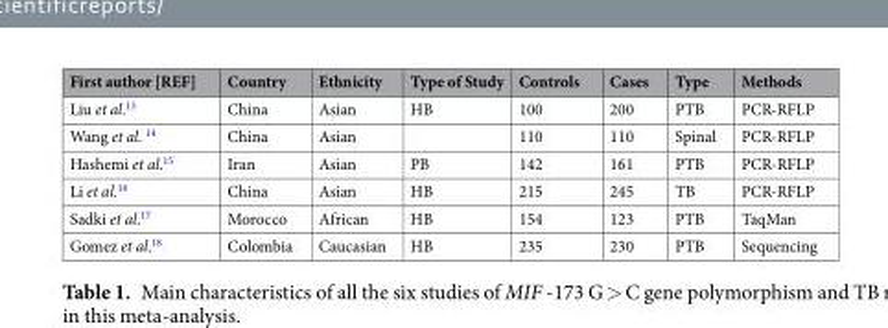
<table><thead><tr><td>First author [REF]</td><td>Country</td><td>Ethnicity</td><td>Type of Study</td><td>Controls</td><td>Cases</td><td>Type</td><td>Methods</td></tr></thead><tbody><tr><td>Liu et al.<sup>13</sup></td><td>China</td><td>Asian</td><td>HB</td><td>100</td><td>200</td><td>PTB</td><td>PCR-RFLP</td></tr><tr><td>Wang et al. <sup>14</sup></td><td>China</td><td>Asian</td><td></td><td>110</td><td>110</td><td>Spinal</td><td>PCR-RFLP</td></tr><tr><td>Hashemi et al.<sup>15</sup></td><td>Iran</td><td>Asian</td><td>PB</td><td>142</td><td>161</td><td>PTB</td><td>PCR-RFLP</td></tr><tr><td>Li et al.<sup>16</sup></td><td>China</td><td>Asian</td><td>HB</td><td>215</td><td>245</td><td>TB</td><td>PCR-RFLP</td></tr><tr><td>Sadki et al.<sup>17</sup></td><td>Morocco</td><td>African</td><td>HB</td><td>154</td><td>123</td><td>PTB</td><td>TaqMan</td></tr><tr><td>Gomez et al.<sup>18</sup></td><td>Colombia</td><td>Caucasian</td><td>HB</td><td>235</td><td>230</td><td>PTB</td><td>Sequencing</td></tr></tbody></table>